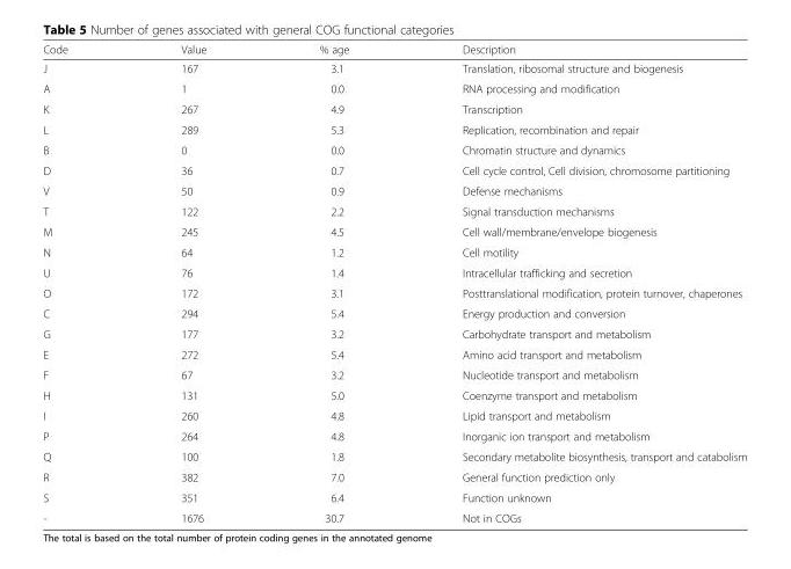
<table><thead><tr><td>Code</td><td>Value</td><td>% age</td><td>Description</td></tr></thead><tbody><tr><td>J</td><td>167</td><td>3.1</td><td>Translation, ribosomal structure and biogenesis</td></tr><tr><td>A</td><td>1</td><td>0.0</td><td>RNA processing and modification</td></tr><tr><td>K</td><td>267</td><td>4.9</td><td>Transcription</td></tr><tr><td>L</td><td>289</td><td>5.3</td><td>Replication, recombination and repair</td></tr><tr><td>B</td><td>0</td><td>0.0</td><td>Chromatin structure and dynamics</td></tr><tr><td>D</td><td>36</td><td>0.7</td><td>Cell cycle control, Cell division, chromosome partitioning</td></tr><tr><td>V</td><td>50</td><td>0.9</td><td>Defense mechanisms</td></tr><tr><td>T</td><td>122</td><td>2.2</td><td>Signal transduction mechanisms</td></tr><tr><td>M</td><td>245</td><td>4.5</td><td>Cell wall/membrane/envelope biogenesis</td></tr><tr><td>N</td><td>64</td><td>1.2</td><td>Cell motility</td></tr><tr><td>U</td><td>76</td><td>1.4</td><td>Intracellular trafficking and secretion</td></tr><tr><td>O</td><td>172</td><td>3.1</td><td>Posttranslational modification, protein turnover, chaperones</td></tr><tr><td>C</td><td>294</td><td>5.4</td><td>Energy production and conversion</td></tr><tr><td>G</td><td>177</td><td>3.2</td><td>Carbohydrate transport and metabolism</td></tr><tr><td>E</td><td>272</td><td>5.4</td><td>Amino acid transport and metabolism</td></tr><tr><td>F</td><td>67</td><td>3.2</td><td>Nucleotide transport and metabolism</td></tr><tr><td>H</td><td>131</td><td>5.0</td><td>Coenzyme transport and metabolism</td></tr><tr><td>I</td><td>260</td><td>4.8</td><td>Lipid transport and metabolism</td></tr><tr><td>P</td><td>264</td><td>4.8</td><td>Inorganic ion transport and metabolism</td></tr><tr><td>Q</td><td>100</td><td>1.8</td><td>Secondary metabolite biosynthesis, transport and catabolism</td></tr><tr><td>R</td><td>382</td><td>7.0</td><td>General function prediction only</td></tr><tr><td>S</td><td>351</td><td>6.4</td><td>Function unknown</td></tr><tr><td>-</td><td>1676</td><td>30.7</td><td>Not in COGs</td></tr></tbody></table>